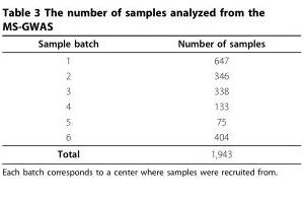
<table><thead><tr><td>Sample batch</td><td>Number of samples</td></tr></thead><tbody><tr><td>1</td><td>647</td></tr><tr><td>2</td><td>346</td></tr><tr><td>3</td><td>338</td></tr><tr><td>4</td><td>133</td></tr><tr><td>5</td><td>75</td></tr><tr><td>6</td><td>404</td></tr><tr><td>Total</td><td>1,943</td></tr></tbody></table>